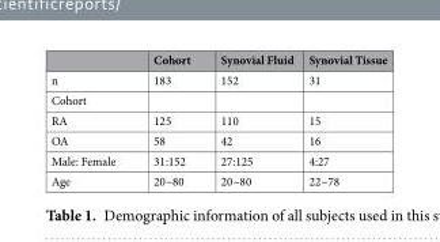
<table><thead><tr><td></td><td>Cohort</td><td>Synovial Fluid</td><td>Synovial Tissue</td></tr></thead><tbody><tr><td>n</td><td>183</td><td>152</td><td>31</td></tr><tr><td colspan="4">Cohort</td></tr><tr><td>RA</td><td>125</td><td>110</td><td>15</td></tr><tr><td>OA</td><td>58</td><td>42</td><td>16</td></tr><tr><td>Male: Female</td><td>31:152</td><td>27:125</td><td>4:27</td></tr><tr><td>Age</td><td>20~80</td><td>20~80</td><td>22~78</td></tr></tbody></table>